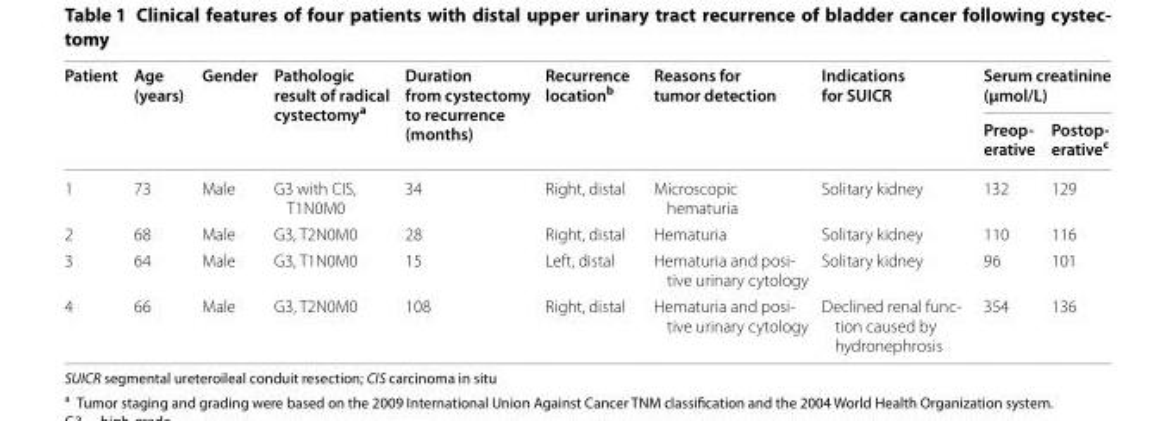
<table><thead><tr><td rowspan="2">Patient</td><td rowspan="2">Age (years)</td><td rowspan="2">Gender</td><td rowspan="2">Pathologic result of radical cystectomy<sup>a</sup></td><td rowspan="2">Duration from cystectomy to recurrence (months)</td><td rowspan="2">Recurrence location<sup>b</sup></td><td rowspan="2">Reasons for tumor detection</td><td rowspan="2">Indications for SUICR</td><td colspan="2">Serum creatinine (μmol/L)</td></tr><tr><td>Preop- erative</td><td>Postop- erativec</td></tr></thead><tbody><tr><td>1</td><td>73</td><td>Male</td><td>G3 with CIS, T1N0M0</td><td>34</td><td>Right, distal</td><td>Microscopic hematuria</td><td>Solitary kidney</td><td>132</td><td>129</td></tr><tr><td>2</td><td>68</td><td>Male</td><td>G3, T2N0M0</td><td>28</td><td>Right, distal</td><td>Hematuria</td><td>Solitary kidney</td><td>110</td><td>116</td></tr><tr><td>3</td><td>64</td><td>Male</td><td>G3, T1N0M0</td><td>15</td><td>Left, distal</td><td>Hematuria and posi‑ tive urinary cytology</td><td>Solitary kidney</td><td>96</td><td>101</td></tr><tr><td>4</td><td>66</td><td>Male</td><td>G3, T2N0M0</td><td>108</td><td>Right, distal</td><td>Hematuria and posi‑ tive urinary cytology</td><td>Declined renal func‑ tion caused by hydronephrosis</td><td>354</td><td>136</td></tr></tbody></table>